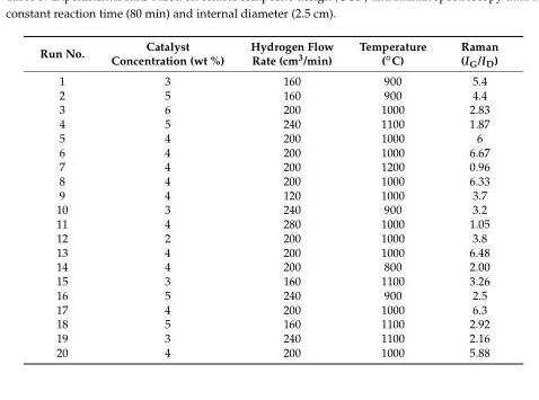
<table><thead><tr><td>Run No.</td><td>Catalyst Concentration (wt %)</td><td>Hydrogen Flow Rate (cm<sup>3</sup>/min)</td><td>Temperature (◦C)</td><td>Raman (IG/ID)</td></tr></thead><tbody><tr><td>1</td><td>3</td><td>160</td><td>900</td><td>5.4</td></tr><tr><td>2</td><td>5</td><td>160</td><td>900</td><td>4.4</td></tr><tr><td>3</td><td>6</td><td>200</td><td>1000</td><td>2.83</td></tr><tr><td>4</td><td>5</td><td>240</td><td>1100</td><td>1.87</td></tr><tr><td>5</td><td>4</td><td>200</td><td>1000</td><td>6</td></tr><tr><td>6</td><td>4</td><td>200</td><td>1000</td><td>6.67</td></tr><tr><td>7</td><td>4</td><td>200</td><td>1200</td><td>0.96</td></tr><tr><td>8</td><td>4</td><td>200</td><td>1000</td><td>6.33</td></tr><tr><td>9</td><td>4</td><td>120</td><td>1000</td><td>3.7</td></tr><tr><td>10</td><td>3</td><td>240</td><td>900</td><td>3.2</td></tr><tr><td>11</td><td>4</td><td>280</td><td>1000</td><td>1.05</td></tr><tr><td>12</td><td>2</td><td>200</td><td>1000</td><td>3.8</td></tr><tr><td>13</td><td>4</td><td>200</td><td>1000</td><td>6.48</td></tr><tr><td>14</td><td>4</td><td>200</td><td>800</td><td>2.00</td></tr><tr><td>15</td><td>3</td><td>160</td><td>1100</td><td>3.26</td></tr><tr><td>16</td><td>5</td><td>240</td><td>900</td><td>2.5</td></tr><tr><td>17</td><td>4</td><td>200</td><td>1000</td><td>6.3</td></tr><tr><td>18</td><td>5</td><td>160</td><td>1100</td><td>2.92</td></tr><tr><td>19</td><td>3</td><td>240</td><td>1100</td><td>2.16</td></tr><tr><td>20</td><td>4</td><td>200</td><td>1000</td><td>5.88</td></tr></tbody></table>